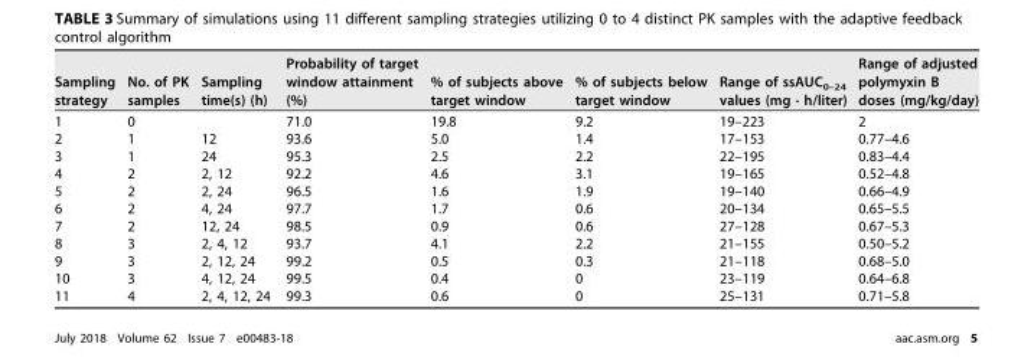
<table><thead><tr><td>Sampling strategy</td><td>No. of PK samples</td><td>Sampling time(s) (h)</td><td>Probability of target window attainment (%)</td><td>% of subjects above target window</td><td>% of subjects below target window</td><td>Range of ssAUC<sub>0–24</sub> values (mg · h/liter)</td><td>Range of adjusted polymyxin B doses (mg/kg/day)</td></tr></thead><tbody><tr><td>1</td><td>0</td><td></td><td>71.0</td><td>19.8</td><td>9.2</td><td>19–223</td><td>2</td></tr><tr><td>2</td><td>1</td><td>12</td><td>93.6</td><td>5.0</td><td>1.4</td><td>17–153</td><td>0.77–4.6</td></tr><tr><td>3</td><td>1</td><td>24</td><td>95.3</td><td>2.5</td><td>2.2</td><td>22–195</td><td>0.83–4.4</td></tr><tr><td>4</td><td>2</td><td>2, 12</td><td>92.2</td><td>4.6</td><td>3.1</td><td>19–165</td><td>0.52–4.8</td></tr><tr><td>5</td><td>2</td><td>2, 24</td><td>96.5</td><td>1.6</td><td>1.9</td><td>19–140</td><td>0.66–4.9</td></tr><tr><td>6</td><td>2</td><td>4, 24</td><td>97.7</td><td>1.7</td><td>0.6</td><td>20–134</td><td>0.65–5.5</td></tr><tr><td>7</td><td>2</td><td>12, 24</td><td>98.5</td><td>0.9</td><td>0.6</td><td>27–128</td><td>0.67–5.3</td></tr><tr><td>8</td><td>3</td><td>2, 4, 12</td><td>93.7</td><td>4.1</td><td>2.2</td><td>21–155</td><td>0.50–5.2</td></tr><tr><td>9</td><td>3</td><td>2, 12, 24</td><td>99.2</td><td>0.5</td><td>0.3</td><td>21–118</td><td>0.68–5.0</td></tr><tr><td>10</td><td>3</td><td>4, 12, 24</td><td>99.5</td><td>0.4</td><td>0</td><td>23–119</td><td>0.64–6.8</td></tr><tr><td>11</td><td>4</td><td>2, 4, 12, 24</td><td>99.3</td><td>0.6</td><td>0</td><td>25–131</td><td>0.71–5.8</td></tr></tbody></table>